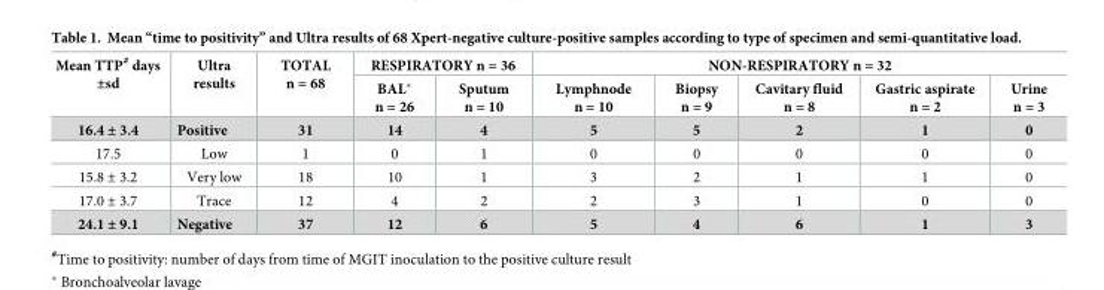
<table><thead><tr><td rowspan="2">Mean TTP<sup>#</sup> days ±sd</td><td rowspan="2">Ultra results</td><td rowspan="2">TOTAL n = 68</td><td colspan="2">RESPIRATORY n = 36</td><td colspan="5">NON-RESPIRATORY n = 32</td></tr><tr><td>BAL* n = 26</td><td>Sputum n = 10</td><td>Lymphnode n = 10</td><td>Biopsy n = 9</td><td>Cavitary fluid n = 8</td><td>Gastric aspirate n = 2</td><td>Urine n = 3</td></tr></thead><tbody><tr><td>16.4 ± 3.4</td><td>Positive</td><td>31</td><td>14</td><td>4</td><td>5</td><td>5</td><td>2</td><td>1</td><td>0</td></tr><tr><td>17.5</td><td>Low</td><td>1</td><td>0</td><td>1</td><td>0</td><td>0</td><td>0</td><td>0</td><td>0</td></tr><tr><td>15.8 ± 3.2</td><td>Very low</td><td>18</td><td>10</td><td>1</td><td>3</td><td>2</td><td>1</td><td>1</td><td>0</td></tr><tr><td>17.0 ± 3.7</td><td>Trace</td><td>12</td><td>4</td><td>2</td><td>2</td><td>3</td><td>1</td><td>0</td><td>0</td></tr><tr><td>24.1 ± 9.1</td><td>Negative</td><td>37</td><td>12</td><td>6</td><td>5</td><td>4</td><td>6</td><td>1</td><td>3</td></tr></tbody></table>